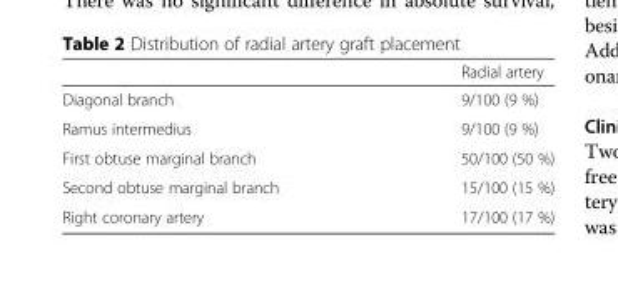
<table><thead><tr><td></td><td>Radial artery</td></tr></thead><tbody><tr><td>Diagonal branch</td><td>9/100 (9 %)</td></tr><tr><td>Ramus intermedius</td><td>9/100 (9 %)</td></tr><tr><td>First obtuse marginal branch</td><td>50/100 (50 %)</td></tr><tr><td>Second obtuse marginal branch</td><td>15/100 (15 %)</td></tr><tr><td>Right coronary artery</td><td>17/100 (17 %)</td></tr></tbody></table>